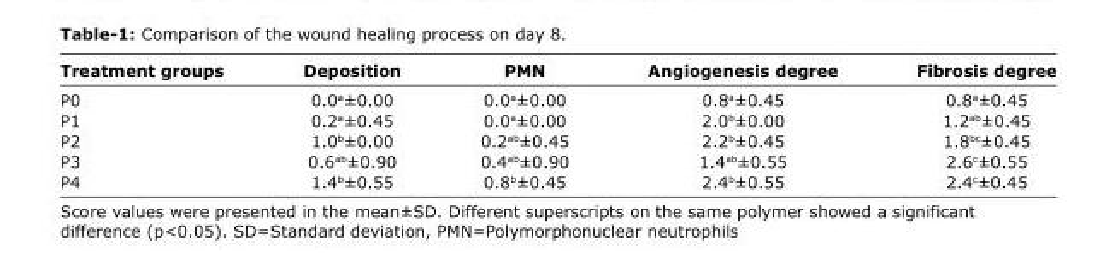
<table><thead><tr><td>Treatment groups</td><td>Deposition</td><td>PMN</td><td>Angiogenesis degree</td><td>Fibrosis degree</td></tr></thead><tbody><tr><td>P0</td><td>0.0<sup>a</sup>±0.00</td><td>0.0<sup>a</sup>±0.00</td><td>0.8<sup>a</sup>±0.45</td><td>0.8<sup>a</sup>±0.45</td></tr><tr><td>P1</td><td>0.2<sup>a</sup>±0.45</td><td>0.0<sup>a</sup>±0.00</td><td>2.0<sup>b</sup>±0.00</td><td>1.2<sup>ab</sup>±0.45</td></tr><tr><td>P2</td><td>1.0<sup>b</sup>±0.00</td><td>0.2<sup>ab</sup>±0.45</td><td>2.2<sup>b</sup>±0.45</td><td>1.8<sup>bc</sup>±0.45</td></tr><tr><td>P3</td><td>0.6<sup>ab</sup>±0.90</td><td>0.4<sup>ab</sup>±0.90</td><td>1.4<sup>ab</sup>±0.55</td><td>2.6<sup>c</sup>±0.55</td></tr><tr><td>P4</td><td>1.4<sup>b</sup>±0.55</td><td>0.8<sup>b</sup>±0.45</td><td>2.4<sup>b</sup>±0.55</td><td>2.4<sup>c</sup>±0.45</td></tr></tbody></table>